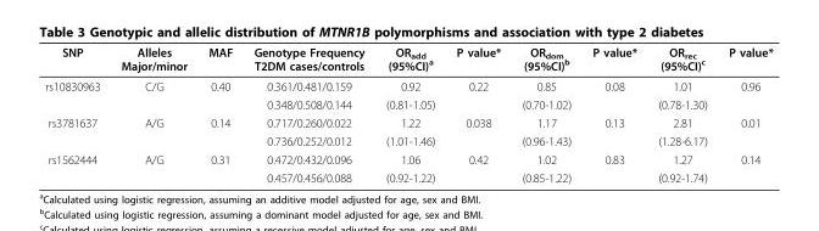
<table><thead><tr><td>SNP</td><td>Alleles Major/minor</td><td>MAF</td><td>Genotype Frequency T2DM cases/controls</td><td>OR<sub>add</sub> (95%CI)<sup>a</sup></td><td>P value*</td><td>OR<sub>dom</sub> (95%CI)<sup>b</sup></td><td>P value*</td><td>OR<sub>rec</sub> (95%CI)<sup>c</sup></td><td>P value*</td></tr></thead><tbody><tr><td rowspan="2">rs10830963</td><td>C/G</td><td>0.40</td><td>0.361/0.481/0.159</td><td>0.92</td><td>0.22</td><td>0.85</td><td>0.08</td><td>1.01</td><td>0.96</td></tr><tr><td></td><td></td><td>0.348/0.508/0.144</td><td>(0.81-1.05)</td><td></td><td>(0.70-1.02)</td><td></td><td>(0.78-1.30)</td><td></td></tr><tr><td rowspan="2">rs3781637</td><td>A/G</td><td>0.14</td><td>0.717/0.260/0.022</td><td>1.22</td><td>0.038</td><td>1.17</td><td>0.13</td><td>2.81</td><td>0.01</td></tr><tr><td></td><td></td><td>0.736/0.252/0.012</td><td>(1.01-1.46)</td><td></td><td>(0.96-1.43)</td><td></td><td>(1.28-6.17)</td><td></td></tr><tr><td rowspan="2">rs1562444</td><td>A/G</td><td>0.31</td><td>0.472/0.432/0.096</td><td>1.06</td><td>0.42</td><td>1.02</td><td>0.83</td><td>1.27</td><td>0.14</td></tr><tr><td></td><td></td><td>0.457/0.456/0.088</td><td>(0.92-1.22)</td><td></td><td>(0.85-1.22)</td><td></td><td>(0.92-1.74)</td><td></td></tr></tbody></table>